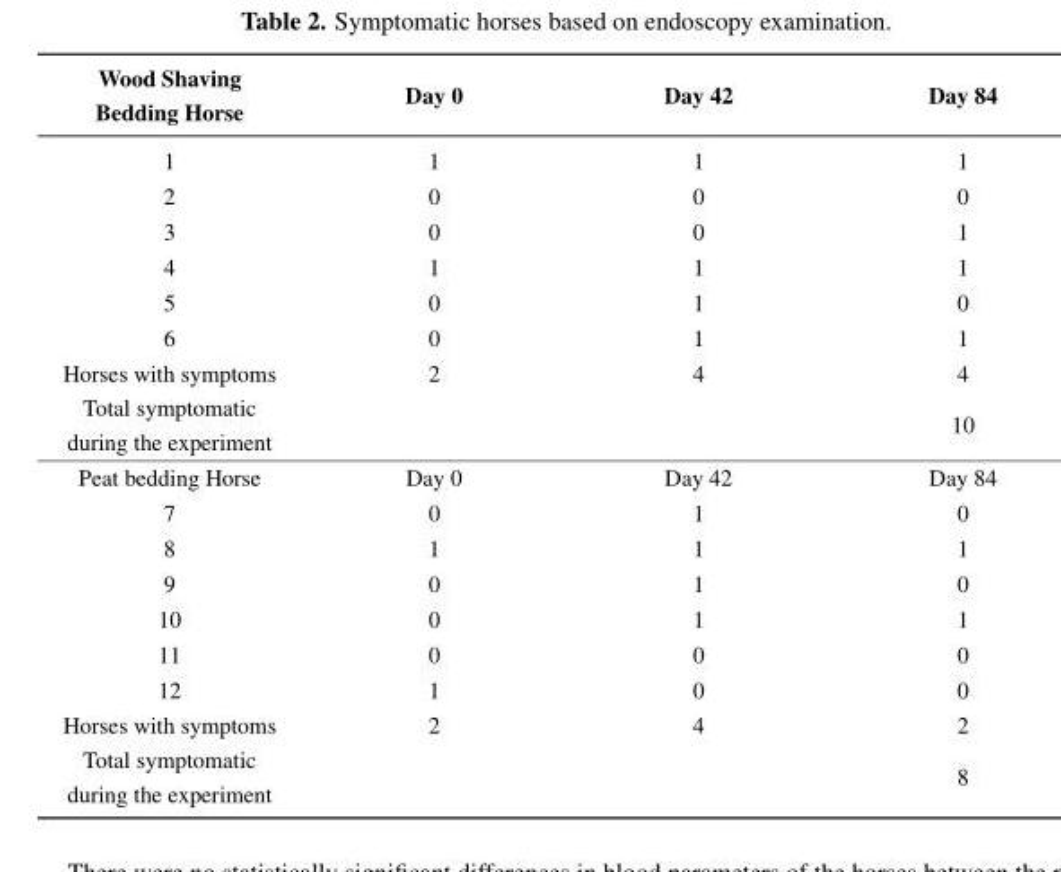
<table><thead><tr><td>Wood Shaving Bedding Horse</td><td>Day 0</td><td>Day 42</td><td>Day 84</td></tr></thead><tbody><tr><td>1</td><td>1</td><td>1</td><td>1</td></tr><tr><td>2</td><td>0</td><td>0</td><td>0</td></tr><tr><td>3</td><td>0</td><td>0</td><td>1</td></tr><tr><td>4</td><td>1</td><td>1</td><td>1</td></tr><tr><td>5</td><td>0</td><td>1</td><td>0</td></tr><tr><td>6</td><td>0</td><td>1</td><td>1</td></tr><tr><td>Horses with symptoms</td><td>2</td><td>4</td><td>4</td></tr><tr><td>Total symptomatic during the experiment</td><td></td><td></td><td>10</td></tr><tr><td>Peat bedding Horse</td><td>Day 0</td><td>Day 42</td><td>Day 84</td></tr><tr><td>7</td><td>0</td><td>1</td><td>0</td></tr><tr><td>8</td><td>1</td><td>1</td><td>1</td></tr><tr><td>9</td><td>0</td><td>1</td><td>0</td></tr><tr><td>10</td><td>0</td><td>1</td><td>1</td></tr><tr><td>11</td><td>0</td><td>0</td><td>0</td></tr><tr><td>12</td><td>1</td><td>0</td><td>0</td></tr><tr><td>Horses with symptoms</td><td>2</td><td>4</td><td>2</td></tr><tr><td>Total symptomatic during the experiment</td><td></td><td></td><td>8</td></tr></tbody></table>